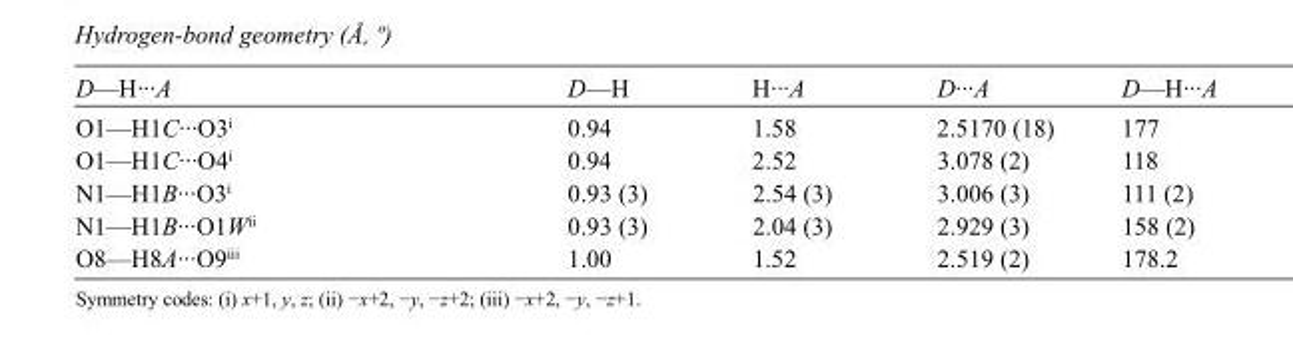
<table><tbody><tr><td>D—H···A</td><td>D—H</td><td>H···A</td><td>D···A</td><td>D—H···A</td></tr><tr><td>O1—H1C···O3<sup>i</sup></td><td>0.94</td><td>1.58</td><td>2.5170 (18)</td><td>177</td></tr><tr><td>O1—H1C···O4<sup>i</sup></td><td>0.94</td><td>2.52</td><td>3.078 (2)</td><td>118</td></tr><tr><td>N1—H1B···O3<sup>i</sup></td><td>0.93 (3)</td><td>2.54 (3)</td><td>3.006 (3)</td><td>111 (2)</td></tr><tr><td>N1—H1B···O1W<sup>ii</sup></td><td>0.93 (3)</td><td>2.04 (3)</td><td>2.929 (3)</td><td>158 (2)</td></tr><tr><td>O8—H8A···O9<sup>iii</sup></td><td>1.00</td><td>1.52</td><td>2.519 (2)</td><td>178.2</td></tr></tbody></table>